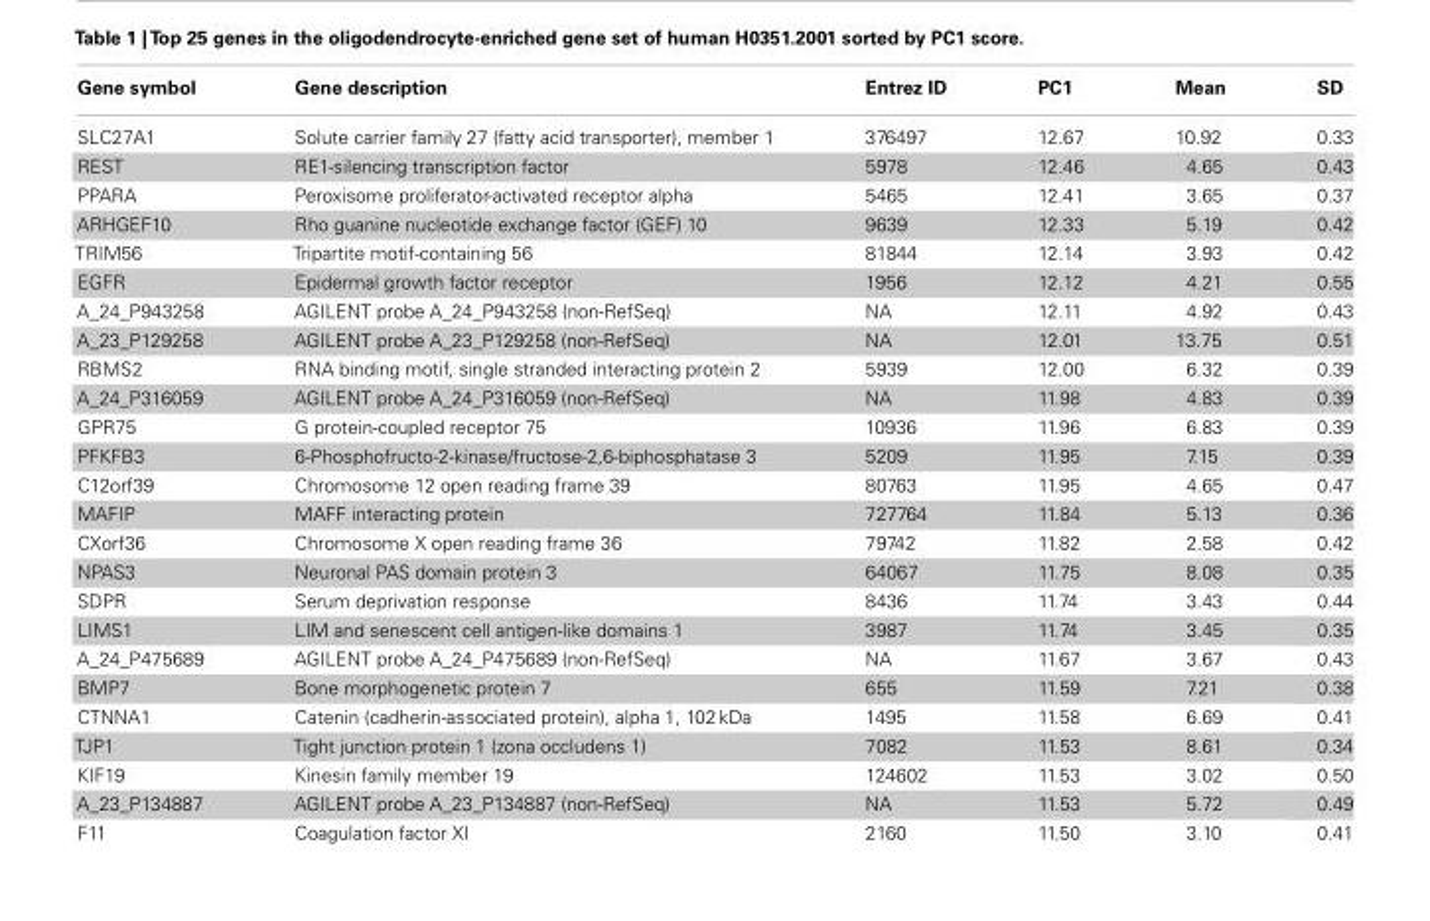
<table><thead><tr><td>Gene symbol</td><td>Gene description</td><td>Entrez ID</td><td>PC1</td><td>Mean</td><td>SD</td></tr></thead><tbody><tr><td>SLC27A1</td><td>Solute carrier family 27 (fatty acid transporter), member 1</td><td>376497</td><td>12.67</td><td>10.92</td><td>0.33</td></tr><tr><td>REST</td><td>RE1-silencing transcription factor</td><td>5978</td><td>12.46</td><td>4.65</td><td>0.43</td></tr><tr><td>PPARA</td><td>Peroxisome proliferator-activated receptor alpha</td><td>5465</td><td>12.41</td><td>3.65</td><td>0.37</td></tr><tr><td>ARHGEF10</td><td>Rho guanine nucleotide exchange factor (GEF) 10</td><td>9639</td><td>12.33</td><td>5.19</td><td>0.42</td></tr><tr><td>TRIM56</td><td>Tripartite motif-containing 56</td><td>81844</td><td>12.14</td><td>3.93</td><td>0.42</td></tr><tr><td>EGFR</td><td>Epidermal growth factor receptor</td><td>1956</td><td>12.12</td><td>4.21</td><td>0.55</td></tr><tr><td>A_24_P943258</td><td>AGILENT probe A_24_P943258 (non-RefSeq)</td><td>NA</td><td>12.11</td><td>4.92</td><td>0.43</td></tr><tr><td>A_23_P129258</td><td>AGILENT probe A_23_P129258 (non-RefSeq)</td><td>NA</td><td>12.01</td><td>13.75</td><td>0.51</td></tr><tr><td>RBMS2</td><td>RNA binding motif, single stranded interacting protein 2</td><td>5939</td><td>12.00</td><td>6.32</td><td>0.39</td></tr><tr><td>A_24_P316059</td><td>AGILENT probe A_24_P316059 (non-RefSeq)</td><td>NA</td><td>11.98</td><td>4.83</td><td>0.39</td></tr><tr><td>GPR75</td><td>G protein-coupled receptor 75</td><td>10936</td><td>11.96</td><td>6.83</td><td>0.39</td></tr><tr><td>PFKFB3</td><td>6-Phosphofructo-2-kinase/fructose-2,6-biphosphatase 3</td><td>5209</td><td>11.95</td><td>7.15</td><td>0.39</td></tr><tr><td>C12orf39</td><td>Chromosome 12 open reading frame 39</td><td>80763</td><td>11.95</td><td>4.65</td><td>0.47</td></tr><tr><td>MAFIP</td><td>MAFF interacting protein</td><td>727764</td><td>11.84</td><td>5.13</td><td>0.36</td></tr><tr><td>CXorf36</td><td>Chromosome X open reading frame 36</td><td>79742</td><td>11.82</td><td>2.58</td><td>0.42</td></tr><tr><td>NPAS3</td><td>Neuronal PAS domain protein 3</td><td>64067</td><td>11.75</td><td>8.08</td><td>0.35</td></tr><tr><td>SDPR</td><td>Serum deprivation response</td><td>8436</td><td>11.74</td><td>3.43</td><td>0.44</td></tr><tr><td>LIMS1</td><td>LIM and senescent cell antigen-like domains 1</td><td>3987</td><td>11.74</td><td>3.45</td><td>0.35</td></tr><tr><td>A_24_P475689</td><td>AGILENT probe A_24_P475689 (non-RefSeq)</td><td>NA</td><td>11.67</td><td>3.67</td><td>0.43</td></tr><tr><td>BMP7</td><td>Bone morphogenetic protein 7</td><td>655</td><td>11.59</td><td>7.21</td><td>0.38</td></tr><tr><td>CTNNA1</td><td>Catenin (cadherin-associated protein), alpha 1, 102 kDa</td><td>1495</td><td>11.58</td><td>6.69</td><td>0.41</td></tr><tr><td>TJP1</td><td>Tight junction protein 1 (zona occludens 1)</td><td>7082</td><td>11.53</td><td>8.61</td><td>0.34</td></tr><tr><td>KIF19</td><td>Kinesin family member 19</td><td>124602</td><td>11.53</td><td>3.02</td><td>0.50</td></tr><tr><td>A_23_P134887</td><td>AGILENT probe A_23_P134887 (non-RefSeq)</td><td>NA</td><td>11.53</td><td>5.72</td><td>0.49</td></tr><tr><td>F11</td><td>Coagulation factor XI</td><td>2160</td><td>11.50</td><td>3.10</td><td>0.41</td></tr></tbody></table>